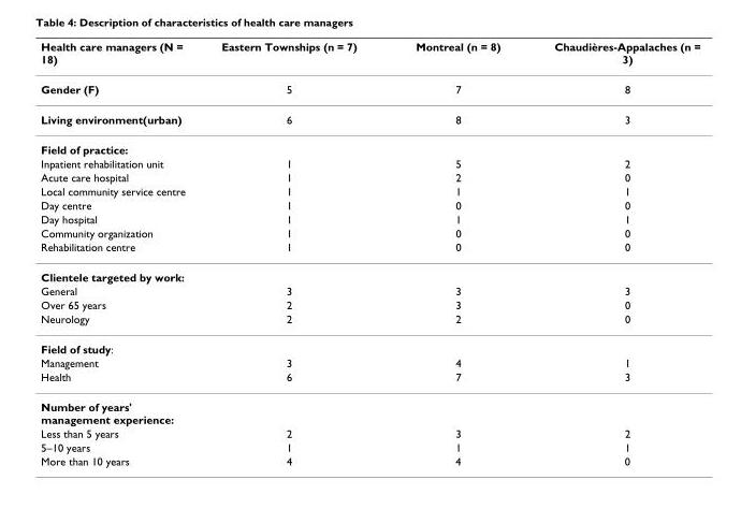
<table><thead><tr><td>Health care managers (N = 18)</td><td>Eastern Townships (n = 7)</td><td>Montreal (n = 8)</td><td>Chaudières-Appalaches (n = 3)</td></tr></thead><tbody><tr><td>Gender (F)</td><td>5</td><td>7</td><td>8</td></tr><tr><td>Living environment(urban)</td><td>6</td><td>8</td><td>3</td></tr><tr><td colspan="4">Field of practice:</td></tr><tr><td>Inpatient rehabilitation unit</td><td>1</td><td>5</td><td>2</td></tr><tr><td>Acute care hospital</td><td>1</td><td>2</td><td>0</td></tr><tr><td>Local community service centre</td><td>1</td><td>1</td><td>1</td></tr><tr><td>Day centre</td><td>1</td><td>0</td><td>0</td></tr><tr><td>Day hospital</td><td>1</td><td>1</td><td>1</td></tr><tr><td>Community organization</td><td>1</td><td>0</td><td>0</td></tr><tr><td>Rehabilitation centre</td><td>1</td><td>0</td><td>0</td></tr><tr><td colspan="4">Clientele targeted by work:</td></tr><tr><td>General</td><td>3</td><td>3</td><td>3</td></tr><tr><td>Over 65 years</td><td>2</td><td>3</td><td>0</td></tr><tr><td>Neurology</td><td>2</td><td>2</td><td>0</td></tr><tr><td colspan="4">Field of study:</td></tr><tr><td>Management</td><td>3</td><td>4</td><td>1</td></tr><tr><td>Health</td><td>6</td><td>7</td><td>3</td></tr><tr><td colspan="4">Number of years&#x27; management experience:</td></tr><tr><td>Less than 5 years</td><td>2</td><td>3</td><td>2</td></tr><tr><td>5–10 years</td><td>1</td><td>1</td><td>1</td></tr><tr><td>More than 10 years</td><td>4</td><td>4</td><td>0</td></tr></tbody></table>